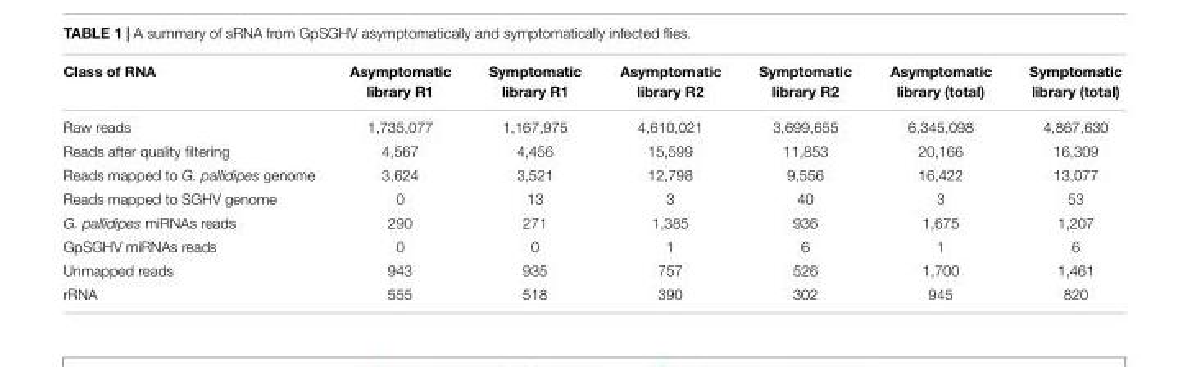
<table><thead><tr><td>Class of RNA</td><td>Asymptomatic library R1</td><td>Symptomatic library R1</td><td>Asymptomatic library R2</td><td>Symptomatic library R2</td><td>Asymptomatic library (total)</td><td>Symptomatic library (total)</td></tr></thead><tbody><tr><td>Raw reads</td><td>1,735,077</td><td>1,167,975</td><td>4,610,021</td><td>3,699,655</td><td>6,345,098</td><td>4,867,630</td></tr><tr><td>Reads after quality filtering</td><td>4,567</td><td>4,456</td><td>15,599</td><td>11,853</td><td>20,166</td><td>16,309</td></tr><tr><td>Reads mapped to G. pallidipes genome</td><td>3,624</td><td>3,521</td><td>12,798</td><td>9,556</td><td>16,422</td><td>13,077</td></tr><tr><td>Reads mapped to SGHV genome</td><td>0</td><td>13</td><td>3</td><td>40</td><td>3</td><td>53</td></tr><tr><td>G. pallidipes miRNAs reads</td><td>290</td><td>271</td><td>1,385</td><td>936</td><td>1,675</td><td>1,207</td></tr><tr><td>GpSGHV miRNAs reads</td><td>0</td><td>0</td><td>1</td><td>6</td><td>1</td><td>6</td></tr><tr><td>Unmapped reads</td><td>943</td><td>935</td><td>757</td><td>526</td><td>1,700</td><td>1,461</td></tr><tr><td>rRNA</td><td>555</td><td>518</td><td>390</td><td>302</td><td>945</td><td>820</td></tr></tbody></table>